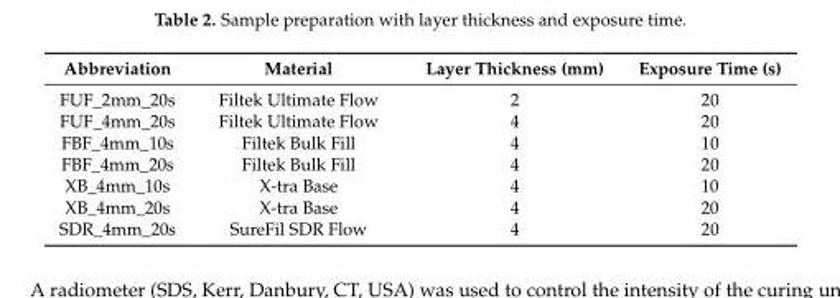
<table><thead><tr><td>Abbreviation</td><td>Material</td><td>Layer Thickness (mm)</td><td>Exposure Time (s)</td></tr></thead><tbody><tr><td>FUF_2mm_20s</td><td>Filtek Ultimate Flow</td><td>2</td><td>20</td></tr><tr><td>FUF_4mm_20s</td><td>Filtek Ultimate Flow</td><td>4</td><td>20</td></tr><tr><td>FBF_4mm_10s</td><td>Filtek Bulk Fill</td><td>4</td><td>10</td></tr><tr><td>FBF_4mm_20s</td><td>Filtek Bulk Fill</td><td>4</td><td>20</td></tr><tr><td>XB_4mm_10s</td><td>X-tra Base</td><td>4</td><td>10</td></tr><tr><td>XB_4mm_20s</td><td>X-tra Base</td><td>4</td><td>20</td></tr><tr><td>SDR_4mm_20s</td><td>SureFil SDR Flow</td><td>4</td><td>20</td></tr></tbody></table>